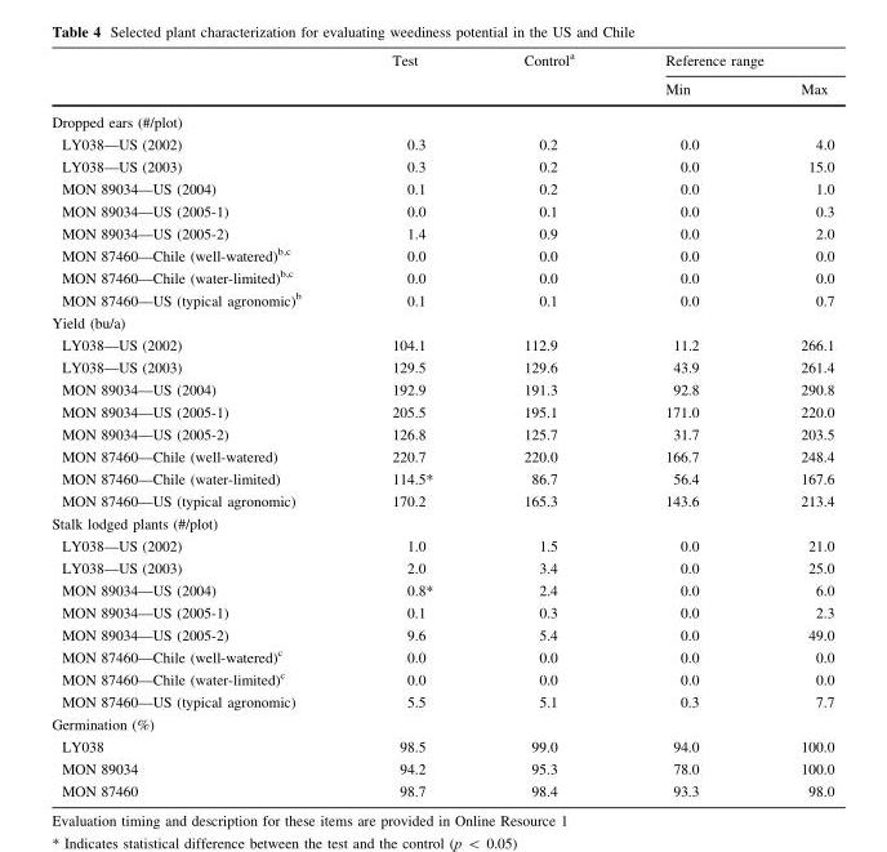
<table><thead><tr><td rowspan="2"></td><td rowspan="2">Test</td><td rowspan="2">Control<sup>a</sup></td><td colspan="2">Reference range</td></tr><tr><td>Min</td><td>Max</td></tr></thead><tbody><tr><td colspan="5">Dropped ears (#/plot)</td></tr><tr><td>LY038—US (2002)</td><td>0.3</td><td>0.2</td><td>0.0</td><td>4.0</td></tr><tr><td>LY038—US (2003)</td><td>0.3</td><td>0.2</td><td>0.0</td><td>15.0</td></tr><tr><td>MON 89034—US (2004)</td><td>0.1</td><td>0.2</td><td>0.0</td><td>1.0</td></tr><tr><td>MON 89034—US (2005-1)</td><td>0.0</td><td>0.1</td><td>0.0</td><td>0.3</td></tr><tr><td>MON 89034—US (2005-2)</td><td>1.4</td><td>0.9</td><td>0.0</td><td>2.0</td></tr><tr><td>MON 87460—Chile (well-watered)<sup>b,c</sup></td><td>0.0</td><td>0.0</td><td>0.0</td><td>0.0</td></tr><tr><td>MON 87460—Chile (water-limited)<sup>b,c</sup></td><td>0.0</td><td>0.0</td><td>0.0</td><td>0.0</td></tr><tr><td>MON 87460—US (typical agronomic)<sup>b</sup></td><td>0.1</td><td>0.1</td><td>0.0</td><td>0.7</td></tr><tr><td colspan="5">Yield (bu/a)</td></tr><tr><td>LY038—US (2002)</td><td>104.1</td><td>112.9</td><td>11.2</td><td>266.1</td></tr><tr><td>LY038—US (2003)</td><td>129.5</td><td>129.6</td><td>43.9</td><td>261.4</td></tr><tr><td>MON 89034—US (2004)</td><td>192.9</td><td>191.3</td><td>92.8</td><td>290.8</td></tr><tr><td>MON 89034—US (2005-1)</td><td>205.5</td><td>195.1</td><td>171.0</td><td>220.0</td></tr><tr><td>MON 89034—US (2005-2)</td><td>126.8</td><td>125.7</td><td>31.7</td><td>203.5</td></tr><tr><td>MON 87460—Chile (well-watered)</td><td>220.7</td><td>220.0</td><td>166.7</td><td>248.4</td></tr><tr><td>MON 87460—Chile (water-limited)</td><td>114.5*</td><td>86.7</td><td>56.4</td><td>167.6</td></tr><tr><td>MON 87460—US (typical agronomic)</td><td>170.2</td><td>165.3</td><td>143.6</td><td>213.4</td></tr><tr><td colspan="5">Stalk lodged plants (#/plot)</td></tr><tr><td>LY038—US (2002)</td><td>1.0</td><td>1.5</td><td>0.0</td><td>21.0</td></tr><tr><td>LY038—US (2003)</td><td>2.0</td><td>3.4</td><td>0.0</td><td>25.0</td></tr><tr><td>MON 89034—US (2004)</td><td>0.8*</td><td>2.4</td><td>0.0</td><td>6.0</td></tr><tr><td>MON 89034—US (2005-1)</td><td>0.1</td><td>0.3</td><td>0.0</td><td>2.3</td></tr><tr><td>MON 89034—US (2005-2)</td><td>9.6</td><td>5.4</td><td>0.0</td><td>49.0</td></tr><tr><td>MON 87460—Chile (well-watered)<sup>c</sup></td><td>0.0</td><td>0.0</td><td>0.0</td><td>0.0</td></tr><tr><td>MON 87460—Chile (water-limited)<sup>c</sup></td><td>0.0</td><td>0.0</td><td>0.0</td><td>0.0</td></tr><tr><td>MON 87460—US (typical agronomic)</td><td>5.5</td><td>5.1</td><td>0.3</td><td>7.7</td></tr><tr><td colspan="5">Germination (%)</td></tr><tr><td>LY038</td><td>98.5</td><td>99.0</td><td>94.0</td><td>100.0</td></tr><tr><td>MON 89034</td><td>94.2</td><td>95.3</td><td>78.0</td><td>100.0</td></tr><tr><td>MON 87460</td><td>98.7</td><td>98.4</td><td>93.3</td><td>98.0</td></tr></tbody></table>